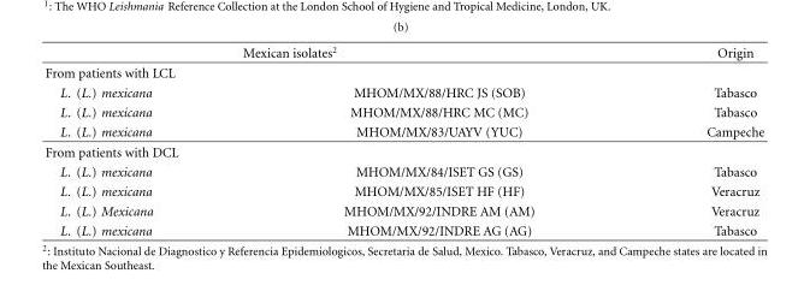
<table><thead><tr><td colspan="2">Mexican isolates<sup>2</sup></td><td rowspan="2">Origin</td></tr><tr><td>From patients with LCL</td><td></td></tr></thead><tbody><tr><td>L. (L.) mexicana</td><td>MHOM/MX/88/HRC JS (SOB)</td><td>Tabasco</td></tr><tr><td>L. (L.) mexicana</td><td>MHOM/MX/88/HRC MC (MC)</td><td>Tabasco</td></tr><tr><td>L. (L.) mexicana</td><td>MHOM/MX/83/UAYV (YUC)</td><td>Campeche</td></tr><tr><td colspan="3">From patients with DCL</td></tr><tr><td>L. (L.) mexicana</td><td>MHOM/MX/84/ISET GS (GS)</td><td>Tabasco</td></tr><tr><td>L. (L.) mexicana</td><td>MHOM/MX/85/ISET HF (HF)</td><td>Veracruz</td></tr><tr><td>L. (L.) Mexicana</td><td>MHOM/MX/92/INDRE AM (AM)</td><td>Veracruz</td></tr><tr><td>L. (L.) mexicana</td><td>MHOM/MX/92/INDRE AG (AG)</td><td>Tabasco</td></tr></tbody></table>